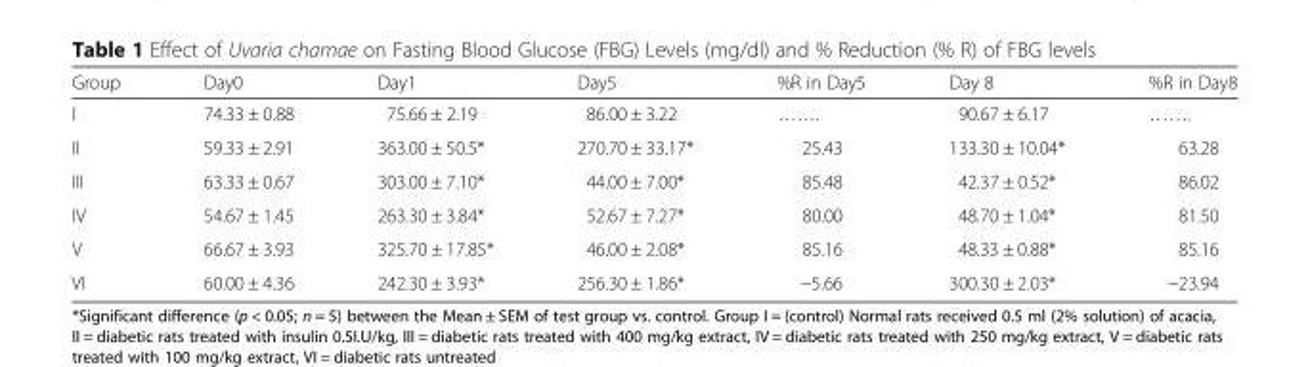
<table><thead><tr><td>Group</td><td>Day0</td><td>Day1</td><td>Day5</td><td>%R in Day5</td><td>Day 8</td><td>%R in Day8</td></tr></thead><tbody><tr><td>I</td><td>74.33 ± 0.88</td><td>75.66 ± 2.19</td><td>86.00 ± 3.22</td><td>…….</td><td>90.67 ± 6.17</td><td>…….</td></tr><tr><td>II</td><td>59.33 ± 2.91</td><td>363.00 ± 50.5*</td><td>270.70 ± 33.17*</td><td>25.43</td><td>133.30 ± 10.04*</td><td>63.28</td></tr><tr><td>III</td><td>63.33 ± 0.67</td><td>303.00 ± 7.10*</td><td>44.00 ± 7.00*</td><td>85.48</td><td>42.37 ± 0.52*</td><td>86.02</td></tr><tr><td>IV</td><td>54.67 ± 1.45</td><td>263.30 ± 3.84*</td><td>52.67 ± 7.27*</td><td>80.00</td><td>48.70 ± 1.04*</td><td>81.50</td></tr><tr><td>V</td><td>66.67 ± 3.93</td><td>325.70 ± 17.85*</td><td>46.00 ± 2.08*</td><td>85.16</td><td>48.33 ± 0.88*</td><td>85.16</td></tr><tr><td>VI</td><td>60.00 ± 4.36</td><td>242.30 ± 3.93*</td><td>256.30 ± 1.86*</td><td>−5.66</td><td>300.30 ± 2.03*</td><td>−23.94</td></tr></tbody></table>